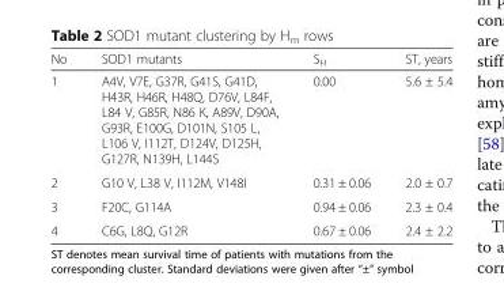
<table><thead><tr><td>No</td><td>SOD1 mutants</td><td>S<sub>H</sub></td><td>ST, years</td></tr></thead><tbody><tr><td>1</td><td>A4V, V7E, G37R, G41S, G41D, H43R, H46R, H48Q, D76V, L84F, L84 V, G85R, N86 K, A89V, D90A, G93R, E100G, D101N, S105 L, L106 V, I112T, D124V, D125H, G127R, N139H, L144S</td><td>0.00</td><td>5.6 ± 5.4</td></tr><tr><td>2</td><td>G10 V, L38 V, I112M, V148I</td><td>0.31 ± 0.06</td><td>2.0 ± 0.7</td></tr><tr><td>3</td><td>F20C, G114A</td><td>0.94 ± 0.06</td><td>2.3 ± 0.4</td></tr><tr><td>4</td><td>C6G, L8Q, G12R</td><td>0.67 ± 0.06</td><td>2.4 ± 2.2</td></tr></tbody></table>